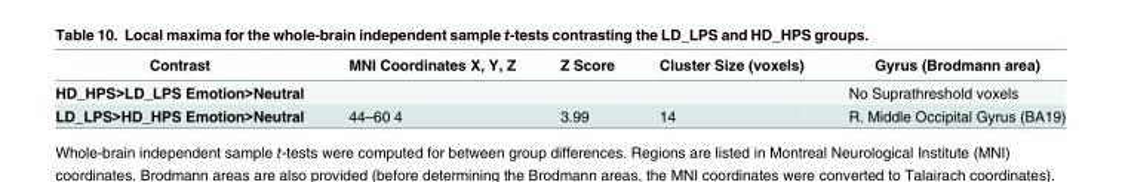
<table><thead><tr><td>Contrast</td><td>MNI Coordinates X, Y, Z</td><td>Z Score</td><td>Cluster Size (voxels)</td><td>Gyrus (Brodmann area)</td></tr></thead><tbody><tr><td>HD_HPS&gt;LD_LPS Emotion&gt;Neutral</td><td></td><td></td><td></td><td>No Suprathreshold voxels</td></tr><tr><td>LD_LPS&gt;HD_HPS Emotion&gt;Neutral</td><td>44–60 4</td><td>3.99</td><td>14</td><td>R. Middle Occipital Gyrus (BA19)</td></tr></tbody></table>